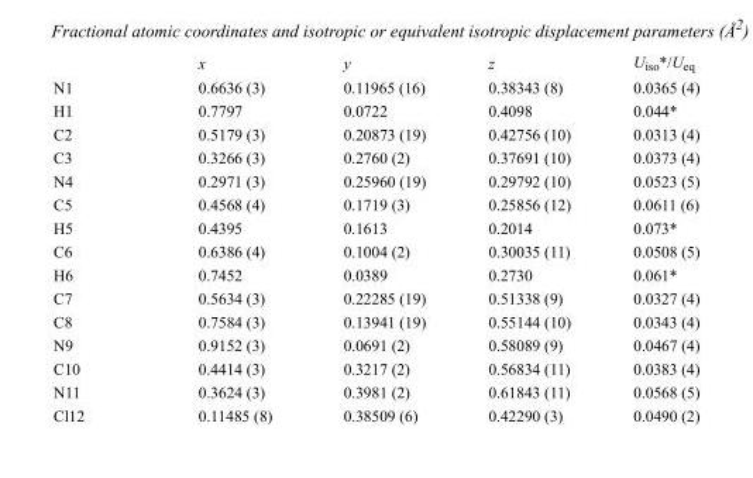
<table><thead><tr><td></td><td>x</td><td>y</td><td>z</td><td>U<sub>iso</sub>*/U<sub>eq</sub></td></tr></thead><tbody><tr><td>N1</td><td>0.6636 (3)</td><td>0.11965 (16)</td><td>0.38343 (8)</td><td>0.0365 (4)</td></tr><tr><td>H1</td><td>0.7797</td><td>0.0722</td><td>0.4098</td><td>0.044*</td></tr><tr><td>C2</td><td>0.5179 (3)</td><td>0.20873 (19)</td><td>0.42756 (10)</td><td>0.0313 (4)</td></tr><tr><td>C3</td><td>0.3266 (3)</td><td>0.2760 (2)</td><td>0.37691 (10)</td><td>0.0373 (4)</td></tr><tr><td>N4</td><td>0.2971 (3)</td><td>0.25960 (19)</td><td>0.29792 (10)</td><td>0.0523 (5)</td></tr><tr><td>C5</td><td>0.4568 (4)</td><td>0.1719 (3)</td><td>0.25856 (12)</td><td>0.0611 (6)</td></tr><tr><td>H5</td><td>0.4395</td><td>0.1613</td><td>0.2014</td><td>0.073*</td></tr><tr><td>C6</td><td>0.6386 (4)</td><td>0.1004 (2)</td><td>0.30035 (11)</td><td>0.0508 (5)</td></tr><tr><td>H6</td><td>0.7452</td><td>0.0389</td><td>0.2730</td><td>0.061*</td></tr><tr><td>C7</td><td>0.5634 (3)</td><td>0.22285 (19)</td><td>0.51338 (9)</td><td>0.0327 (4)</td></tr><tr><td>C8</td><td>0.7584 (3)</td><td>0.13941 (19)</td><td>0.55144 (10)</td><td>0.0343 (4)</td></tr><tr><td>N9</td><td>0.9152 (3)</td><td>0.0691 (2)</td><td>0.58089 (9)</td><td>0.0467 (4)</td></tr><tr><td>C10</td><td>0.4414 (3)</td><td>0.3217 (2)</td><td>0.56834 (11)</td><td>0.0383 (4)</td></tr><tr><td>N11</td><td>0.3624 (3)</td><td>0.3981 (2)</td><td>0.61843 (11)</td><td>0.0568 (5)</td></tr><tr><td>Cl12</td><td>0.11485 (8)</td><td>0.38509 (6)</td><td>0.42290 (3)</td><td>0.0490 (2)</td></tr></tbody></table>